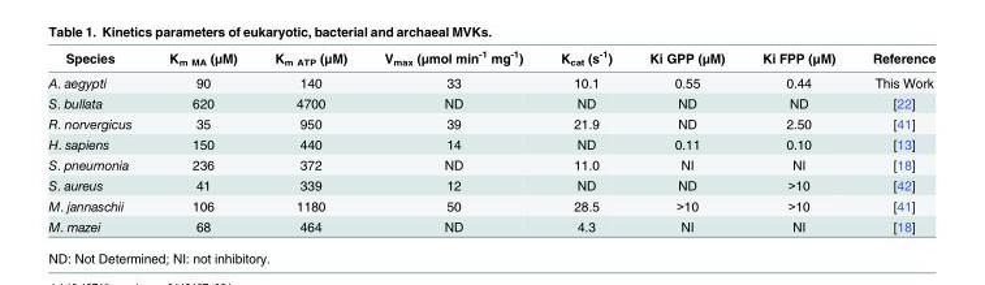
<table><thead><tr><td>Species</td><td>K<sub>m MA</sub> (μM)</td><td>K<sub>m ATP</sub> (μM)</td><td>V<sub>max</sub> (μmol min<sup>-1</sup> mg<sup>-1</sup>)</td><td>K<sub>cat</sub> (s<sup>-1</sup>)</td><td>Ki GPP (μM)</td><td>Ki FPP (μM)</td><td>Reference</td></tr></thead><tbody><tr><td>A. aegypti</td><td>90</td><td>140</td><td>33</td><td>10.1</td><td>0.55</td><td>0.44</td><td>This Work</td></tr><tr><td>S. bullata</td><td>620</td><td>4700</td><td>ND</td><td>ND</td><td>ND</td><td>ND</td><td>[22]</td></tr><tr><td>R. norvergicus</td><td>35</td><td>950</td><td>39</td><td>21.9</td><td>ND</td><td>2.50</td><td>[41]</td></tr><tr><td>H. sapiens</td><td>150</td><td>440</td><td>14</td><td>ND</td><td>0.11</td><td>0.10</td><td>[13]</td></tr><tr><td>S. pneumonia</td><td>236</td><td>372</td><td>ND</td><td>11.0</td><td>NI</td><td>NI</td><td>[18]</td></tr><tr><td>S. aureus</td><td>41</td><td>339</td><td>12</td><td>ND</td><td>ND</td><td>&gt;10</td><td>[42]</td></tr><tr><td>M. jannaschii</td><td>106</td><td>1180</td><td>50</td><td>28.5</td><td>&gt;10</td><td>&gt;10</td><td>[41]</td></tr><tr><td>M. mazei</td><td>68</td><td>464</td><td>ND</td><td>4.3</td><td>NI</td><td>NI</td><td>[18]</td></tr></tbody></table>